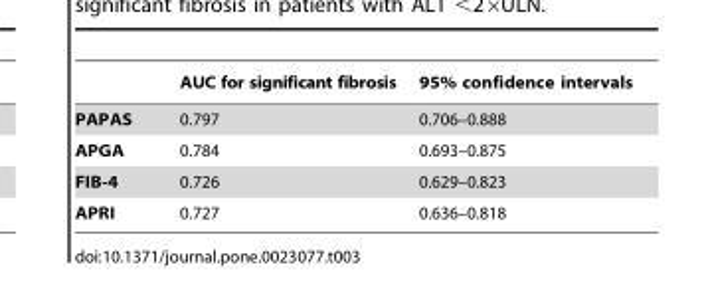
<table><thead><tr><td></td><td>AUC for significant fibrosis</td><td>95% confidence intervals</td></tr></thead><tbody><tr><td>PAPAS</td><td>0.797</td><td>0.706–0.888</td></tr><tr><td>APGA</td><td>0.784</td><td>0.693–0.875</td></tr><tr><td>FIB-4</td><td>0.726</td><td>0.629–0.823</td></tr><tr><td>APRI</td><td>0.727</td><td>0.636–0.818</td></tr></tbody></table>